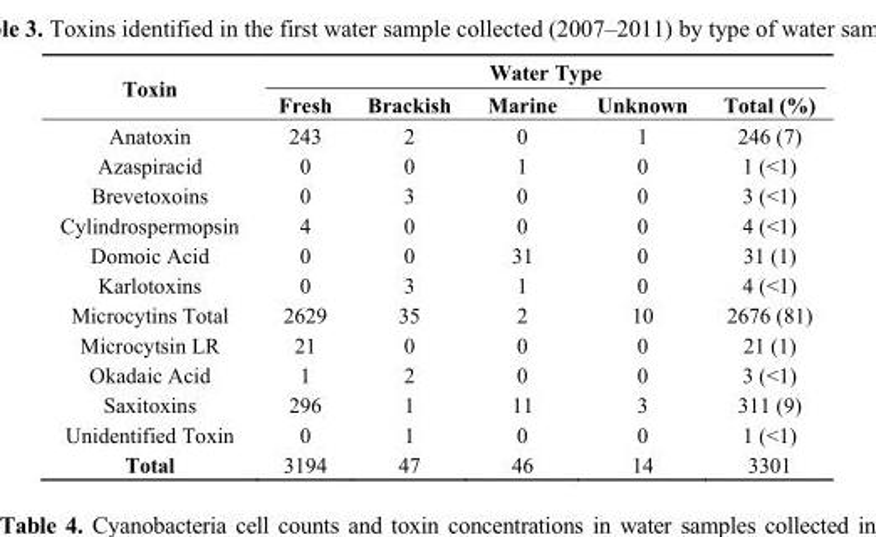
<table><thead><tr><td rowspan="2">Toxin</td><td colspan="5">Water Type</td></tr><tr><td>Fresh</td><td>Brackish</td><td>Marine</td><td>Unknown</td><td>Total (%)</td></tr></thead><tbody><tr><td>Anatoxin</td><td>243</td><td>2</td><td>0</td><td>1</td><td>246 (7)</td></tr><tr><td>Azaspiracid</td><td>0</td><td>0</td><td>1</td><td>0</td><td>1 (&lt;1)</td></tr><tr><td>Brevetoxoins</td><td>0</td><td>3</td><td>0</td><td>0</td><td>3 (&lt;1)</td></tr><tr><td>Cylindrospermopsin</td><td>4</td><td>0</td><td>0</td><td>0</td><td>4 (&lt;1)</td></tr><tr><td>Domoic Acid</td><td>0</td><td>0</td><td>31</td><td>0</td><td>31 (1)</td></tr><tr><td>Karlotoxins</td><td>0</td><td>3</td><td>1</td><td>0</td><td>4 (&lt;1)</td></tr><tr><td>Microcytins Total</td><td>2629</td><td>35</td><td>2</td><td>10</td><td>2676 (81)</td></tr><tr><td>Microcytsin LR</td><td>21</td><td>0</td><td>0</td><td>0</td><td>21 (1)</td></tr><tr><td>Okadaic Acid</td><td>1</td><td>2</td><td>0</td><td>0</td><td>3 (&lt;1)</td></tr><tr><td>Saxitoxins</td><td>296</td><td>1</td><td>11</td><td>3</td><td>311 (9)</td></tr><tr><td>Unidentified Toxin</td><td>0</td><td>1</td><td>0</td><td>0</td><td>1 (&lt;1)</td></tr><tr><td>Total</td><td>3194</td><td>47</td><td>46</td><td>14</td><td>3301</td></tr></tbody></table>